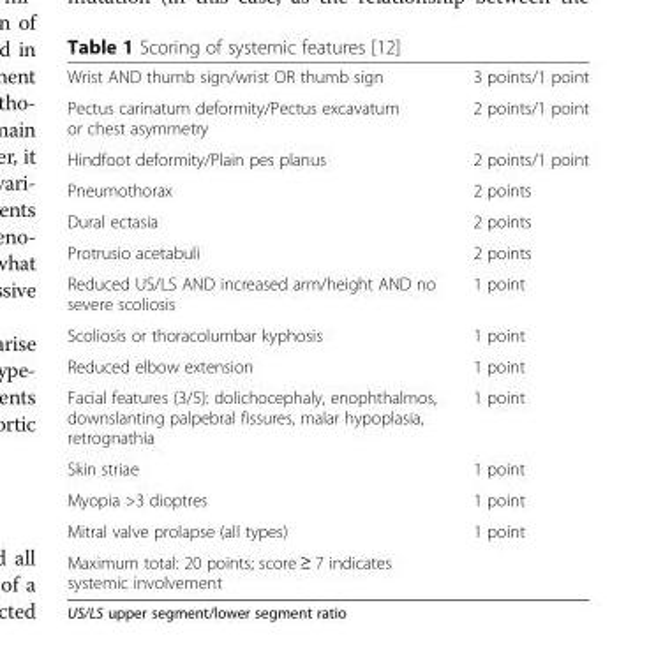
<table><tbody><tr><td>Wrist AND thumb sign/wrist OR thumb sign</td><td>3 points/1 point</td></tr><tr><td>Pectus carinatum deformity/Pectus excavatum or chest asymmetry</td><td>2 points/1 point</td></tr><tr><td>Hindfoot deformity/Plain pes planus</td><td>2 points/1 point</td></tr><tr><td>Pneumothorax</td><td>2 points</td></tr><tr><td>Dural ectasia</td><td>2 points</td></tr><tr><td>Protrusio acetabuli</td><td>2 points</td></tr><tr><td>Reduced US/LS AND increased arm/height AND no severe scoliosis</td><td>1 point</td></tr><tr><td>Scoliosis or thoracolumbar kyphosis</td><td>1 point</td></tr><tr><td>Reduced elbow extension</td><td>1 point</td></tr><tr><td>Facial features (3/5): dolichocephaly, enophthalmos, downslanting palpebral fissures, malar hypoplasia, retrognathia</td><td>1 point</td></tr><tr><td>Skin striae</td><td>1 point</td></tr><tr><td>Myopia &gt;3 dioptres</td><td>1 point</td></tr><tr><td>Mitral valve prolapse (all types)</td><td>1 point</td></tr><tr><td colspan="2">Maximum total: 20 points; score ≥ 7 indicates systemic involvement</td></tr></tbody></table>